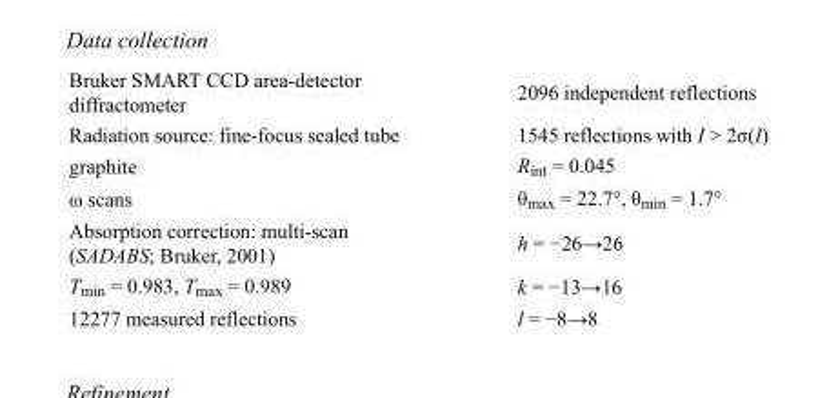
<table><tbody><tr><td>Bruker SMART CCD area-detector diffractometer</td><td>2096 independent reflections</td></tr><tr><td>Radiation source: fine-focus sealed tube</td><td>1545 reflections with I &gt; 2σ(I)</td></tr><tr><td>graphite</td><td>R<sub>int</sub> = 0.045</td></tr><tr><td>ω scans</td><td>θ<sub>max</sub> = 22.7°, θ<sub>min</sub> = 1.7°</td></tr><tr><td>Absorption correction: multi-scan (SADABS; Bruker, 2001)</td><td>h = −26→26</td></tr><tr><td>T<sub>min</sub> = 0.983, T<sub>max</sub> = 0.989</td><td>k = −13→16</td></tr><tr><td>12277 measured reflections</td><td>l = −8→8</td></tr></tbody></table>